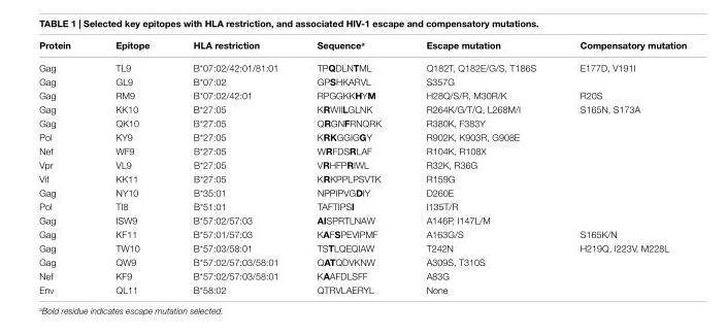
<table><thead><tr><td>Protein</td><td>epitope</td><td>HLA restriction</td><td>Sequence<sup>a</sup></td><td>escape mutation</td><td>Compensatory mutation</td></tr></thead><tbody><tr><td>Gag</td><td>TL9</td><td>B*07:02/42:01/81:01</td><td>TPQDLNTML</td><td>Q182T, Q182E/G/S, T186S</td><td>E177D, V191I</td></tr><tr><td>Gag</td><td>GL9</td><td>B*07:02</td><td>GPSHKARVL</td><td>S357G</td><td></td></tr><tr><td>Gag</td><td>RM9</td><td>B*07:02/42:01</td><td>RPGGKKHYM</td><td>H28Q/S/R, M30R/K</td><td>R20S</td></tr><tr><td>Gag</td><td>KK10</td><td>B*27:05</td><td>KRWIILGLNK</td><td>R264K/G/T/Q, L268M/I</td><td>S165N, S173A</td></tr><tr><td>Gag</td><td>QK10</td><td>B*27:05</td><td>QRGNFRNQRK</td><td>R380K, F383Y</td><td></td></tr><tr><td>Pol</td><td>KY9</td><td>B*27:05</td><td>KRKGGIGGY</td><td>R902K, K903R, G908E</td><td></td></tr><tr><td>Nef</td><td>WF9</td><td>B*27:05</td><td>WRFDSRLAF</td><td>R104K, R108X</td><td></td></tr><tr><td>Vpr</td><td>VL9</td><td>B*27:05</td><td>VRHFPRIWL</td><td>R32K, R36G</td><td></td></tr><tr><td>Vif</td><td>KK11</td><td>B*27:05</td><td>KRKPPLPSVTK</td><td>R159G</td><td></td></tr><tr><td>Gag</td><td>NY10</td><td>B*35:01</td><td>NPPIPVGDIY</td><td>D260E</td><td></td></tr><tr><td>Pol</td><td>TI8</td><td>B*51:01</td><td>TAFTIPSi</td><td>I135T/R</td><td></td></tr><tr><td>Gag</td><td>ISW9</td><td>B*57:02/57:03</td><td>AiSPRTLNAW</td><td>A146P, I147L/M</td><td></td></tr><tr><td>Gag</td><td>KF11</td><td>B*57:01/57:03</td><td>KAFSPEVIPMF</td><td>A163G/S</td><td>S165K/N</td></tr><tr><td>Gag</td><td>TW10</td><td>B*57:03/58:01</td><td>TSTLQEQIAW</td><td>T242N</td><td>H219Q, I223V, M228L</td></tr><tr><td>Gag</td><td>QW9</td><td>B*57:02/57:03/58:01</td><td>QATQDVKNW</td><td>A309S, T310S</td><td></td></tr><tr><td>Nef</td><td>KF9</td><td>B*57:02/57:03/58:01</td><td>KAAFDLSFF</td><td>A83G</td><td></td></tr><tr><td>Env</td><td>QL11</td><td>B*58:02</td><td>QTRVLAERYL</td><td>None</td><td></td></tr></tbody></table>